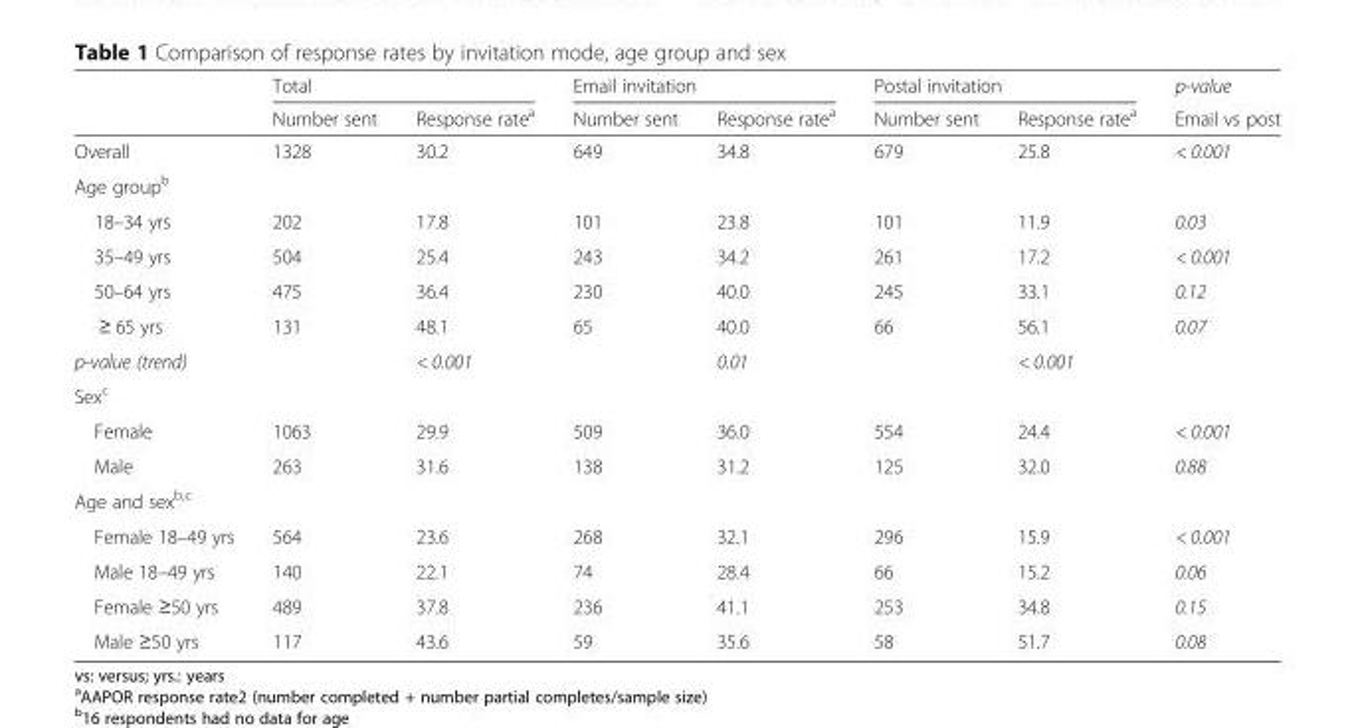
<table><thead><tr><td rowspan="2"></td><td colspan="2">Total</td><td colspan="2">Email invitation</td><td colspan="2">Postal invitation</td><td rowspan="2">p-value Email vs post</td></tr><tr><td>Number sent</td><td>Response rate<sup>a</sup></td><td>Number sent</td><td>Response rate<sup>a</sup></td><td>Number sent</td><td>Response rate<sup>a</sup></td></tr></thead><tbody><tr><td>Overall</td><td>1328</td><td>30.2</td><td>649</td><td>34.8</td><td>679</td><td>25.8</td><td>&lt; 0.001</td></tr><tr><td colspan="8">Age group<sup>b</sup></td></tr><tr><td>18–34 yrs</td><td>202</td><td>17.8</td><td>101</td><td>23.8</td><td>101</td><td>11.9</td><td>0.03</td></tr><tr><td>35–49 yrs</td><td>504</td><td>25.4</td><td>243</td><td>34.2</td><td>261</td><td>17.2</td><td>&lt; 0.001</td></tr><tr><td>50–64 yrs</td><td>475</td><td>36.4</td><td>230</td><td>40.0</td><td>245</td><td>33.1</td><td>0.12</td></tr><tr><td>≥ 65 yrs</td><td>131</td><td>48.1</td><td>65</td><td>40.0</td><td>66</td><td>56.1</td><td>0.07</td></tr><tr><td>p-value (trend)</td><td></td><td>&lt; 0.001</td><td></td><td>0.01</td><td></td><td>&lt; 0.001</td><td></td></tr><tr><td colspan="8">Sex<sup>c</sup></td></tr><tr><td>Female</td><td>1063</td><td>29.9</td><td>509</td><td>36.0</td><td>554</td><td>24.4</td><td>&lt; 0.001</td></tr><tr><td>Male</td><td>263</td><td>31.6</td><td>138</td><td>31.2</td><td>125</td><td>32.0</td><td>0.88</td></tr><tr><td colspan="8">Age and sex<sup>b,c</sup></td></tr><tr><td>Female 18–49 yrs</td><td>564</td><td>23.6</td><td>268</td><td>32.1</td><td>296</td><td>15.9</td><td>&lt; 0.001</td></tr><tr><td>Male 18–49 yrs</td><td>140</td><td>22.1</td><td>74</td><td>28.4</td><td>66</td><td>15.2</td><td>0.06</td></tr><tr><td>Female ≥50 yrs</td><td>489</td><td>37.8</td><td>236</td><td>41.1</td><td>253</td><td>34.8</td><td>0.15</td></tr><tr><td>Male ≥50 yrs</td><td>117</td><td>43.6</td><td>59</td><td>35.6</td><td>58</td><td>51.7</td><td>0.08</td></tr></tbody></table>